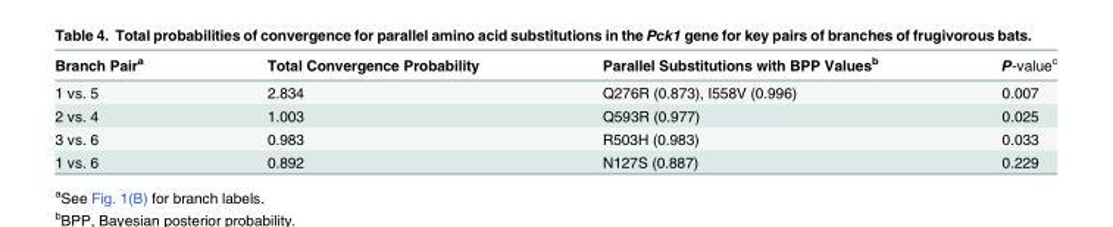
<table><thead><tr><td>Branch Pair<sup>a</sup></td><td>Total Convergence Probability</td><td>Parallel Substitutions with BPP Values<sup>b</sup></td><td>P-value<sup>c</sup></td></tr></thead><tbody><tr><td>1 vs. 5</td><td>2.834</td><td>Q276R (0.873), I558V (0.996)</td><td>0.007</td></tr><tr><td>2 vs. 4</td><td>1.003</td><td>Q593R (0.977)</td><td>0.025</td></tr><tr><td>3 vs. 6</td><td>0.983</td><td>R503H (0.983)</td><td>0.033</td></tr><tr><td>1 vs. 6</td><td>0.892</td><td>N127S (0.887)</td><td>0.229</td></tr></tbody></table>